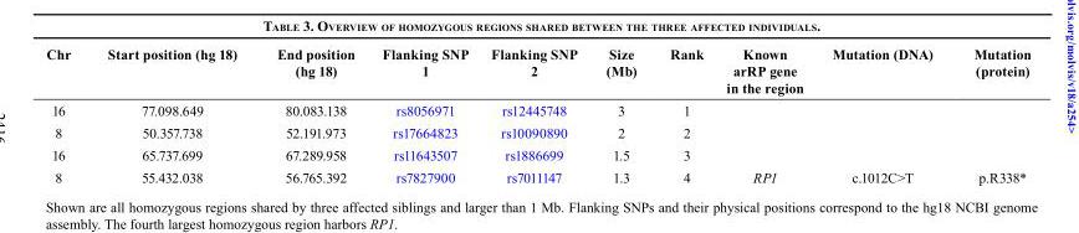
<table><thead><tr><td>Chr</td><td>Start position (hg 18)</td><td>End position (hg 18)</td><td>Flanking SNP 1</td><td>Flanking SNP 2</td><td>Size (Mb)</td><td>Rank</td><td>Known arRP gene in the region</td><td>Mutation (DNA)</td><td>Mutation (protein)</td></tr></thead><tbody><tr><td>16</td><td>77.098.649</td><td>80.083.138</td><td>rs8056971</td><td>rs12445748</td><td>3</td><td>1</td><td></td><td></td><td></td></tr><tr><td>8</td><td>50.357.738</td><td>52.191.973</td><td>rs17664823</td><td>rs10090890</td><td>2</td><td>2</td><td></td><td></td><td></td></tr><tr><td>16</td><td>65.737.699</td><td>67.289.958</td><td>rs11643507</td><td>rs1886699</td><td>1.5</td><td>3</td><td></td><td></td><td></td></tr><tr><td>8</td><td>55.432.038</td><td>56.765.392</td><td>rs7827900</td><td>rs7011147</td><td>1.3</td><td>4</td><td>RP1</td><td>c.1012C&gt;T</td><td>p.R338*</td></tr></tbody></table>